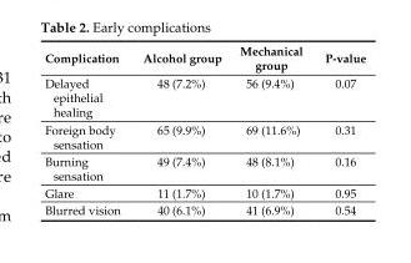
<table><thead><tr><td>Complication</td><td>Alcohol group</td><td>Mechanical group</td><td>P-value</td></tr></thead><tbody><tr><td>Delayed epithelial healing</td><td>48 (7.2%)</td><td>56 (9.4%)</td><td>0.07</td></tr><tr><td>Foreign body sensation</td><td>65 (9.9%)</td><td>69 (11.6%)</td><td>0.31</td></tr><tr><td>Burning sensation</td><td>49 (7.4%)</td><td>48 (8.1%)</td><td>0.16</td></tr><tr><td>Glare</td><td>11 (1.7%)</td><td>10 (1.7%)</td><td>0.95</td></tr><tr><td>Blurred vision</td><td>40 (6.1%)</td><td>41 (6.9%)</td><td>0.54</td></tr></tbody></table>